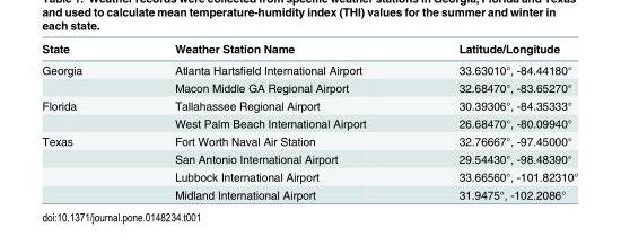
<table><thead><tr><td>State</td><td>Weather Station Name</td><td>Latitude/Longitude</td></tr></thead><tbody><tr><td rowspan="2">Georgia</td><td>Atlanta Hartsfield International Airport</td><td>33.63010°, -84.44180°</td></tr><tr><td>Macon Middle GA Regional Airport</td><td>32.68470°, -83.65270°</td></tr><tr><td rowspan="2">Florida</td><td>Tallahassee Regional Airport</td><td>30.39306°, -84.35333°</td></tr><tr><td>West Palm Beach International Airport</td><td>26.68470°, -80.09940°</td></tr><tr><td rowspan="4">Texas</td><td>Fort Worth Naval Air Station</td><td>32.76667°, -97.45000°</td></tr><tr><td>San Antonio International Airport</td><td>29.54430°, -98.48390°</td></tr><tr><td>Lubbock International Airport</td><td>33.66560°, -101.82310°</td></tr><tr><td>Midland International Airport</td><td>31.9475°, -102.2086°</td></tr></tbody></table>